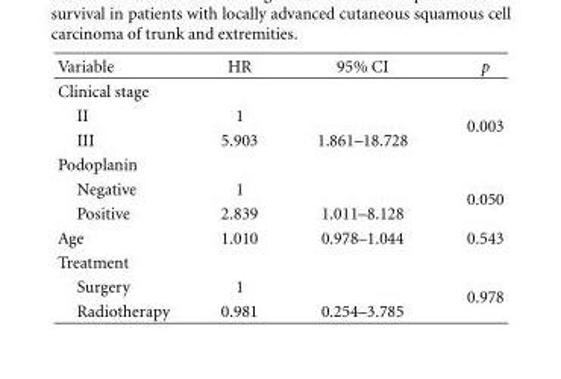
<table><thead><tr><td>Variable</td><td>HR</td><td>95% CI</td><td>p</td></tr></thead><tbody><tr><td colspan="4">Clinical stage</td></tr><tr><td>II</td><td>1</td><td></td><td rowspan="2">0.003</td></tr><tr><td>III</td><td>5.903</td><td>1.861–18.728</td></tr><tr><td colspan="4">Podoplanin</td></tr><tr><td>Negative</td><td>1</td><td></td><td rowspan="2">0.050</td></tr><tr><td>Positive</td><td>2.839</td><td>1.011–8.128</td></tr><tr><td>Age</td><td>1.010</td><td>0.978–1.044</td><td>0.543</td></tr><tr><td colspan="4">Treatment</td></tr><tr><td>Surgery</td><td>1</td><td></td><td rowspan="2">0.978</td></tr><tr><td>Radiotherapy</td><td>0.981</td><td>0.254–3.785</td></tr></tbody></table>